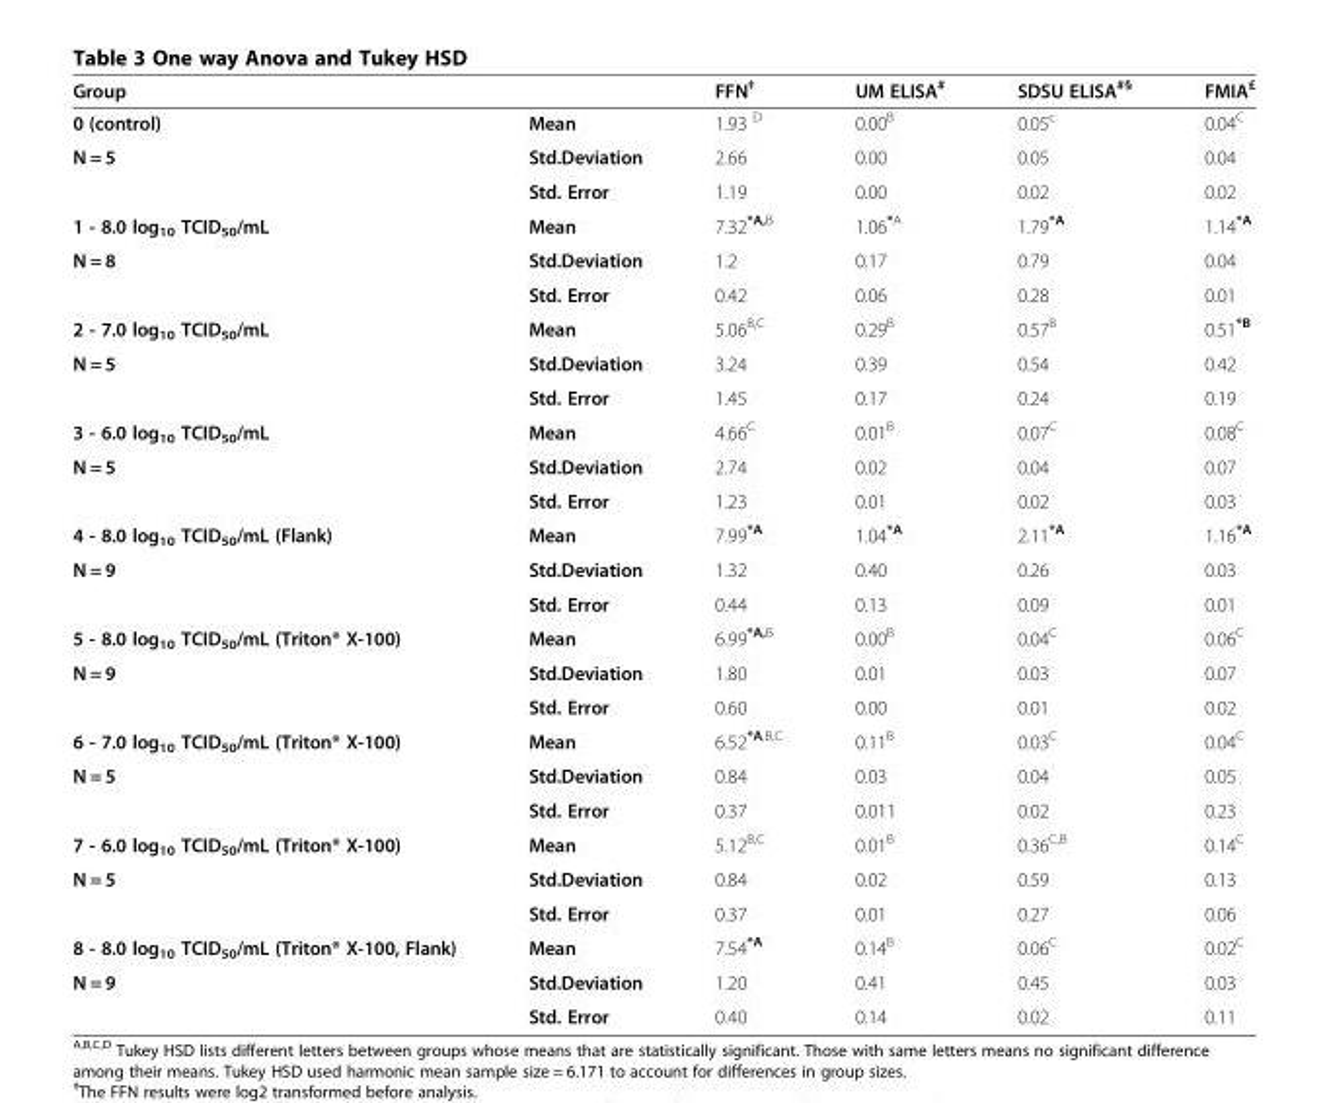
<table><thead><tr><td>Group</td><td></td><td>FFN<sup>ǂ</sup></td><td>UM ELISA<sup>#</sup></td><td>SDSU ELISA<sup>#§</sup></td><td>FMIA<sup>£</sup></td></tr></thead><tbody><tr><td>0 (control)</td><td>Mean</td><td>1.93 <sup>D</sup></td><td>0.00<sup>B</sup></td><td>0.05<sup>c</sup></td><td>0.04<sup>C</sup></td></tr><tr><td rowspan="2">N = 5</td><td>Std.Deviation</td><td>2.66</td><td>0.00</td><td>0.05</td><td>0.04</td></tr><tr><td>Std. Error</td><td>1.19</td><td>0.00</td><td>0.02</td><td>0.02</td></tr><tr><td>1 - 8.0 log<sub>10</sub> TCID<sub>50</sub>/mL</td><td>Mean</td><td>7.32<sup>*A,B</sup></td><td>1.06<sup>*A</sup></td><td>1.79<sup>*A</sup></td><td>1.14<sup>*A</sup></td></tr><tr><td rowspan="2">N = 8</td><td>Std.Deviation</td><td>1.2</td><td>0.17</td><td>0.79</td><td>0.04</td></tr><tr><td>Std. Error</td><td>0.42</td><td>0.06</td><td>0.28</td><td>0.01</td></tr><tr><td>2 - 7.0 log<sub>10</sub> TCID<sub>50</sub>/mL</td><td>Mean</td><td>5.06<sup>B,C</sup></td><td>0.29<sup>B</sup></td><td>0.57<sup>B</sup></td><td>0.51<sup>*B</sup></td></tr><tr><td rowspan="2">N = 5</td><td>Std.Deviation</td><td>3.24</td><td>0.39</td><td>0.54</td><td>0.42</td></tr><tr><td>Std. Error</td><td>1.45</td><td>0.17</td><td>0.24</td><td>0.19</td></tr><tr><td>3 - 6.0 log<sub>10</sub> TCID<sub>50</sub>/mL</td><td>Mean</td><td>4.66<sup>C</sup></td><td>0.01<sup>B</sup></td><td>0.07<sup>C</sup></td><td>0.08<sup>C</sup></td></tr><tr><td rowspan="2">N = 5</td><td>Std.Deviation</td><td>2.74</td><td>0.02</td><td>0.04</td><td>0.07</td></tr><tr><td>Std. Error</td><td>1.23</td><td>0.01</td><td>0.02</td><td>0.03</td></tr><tr><td>4 - 8.0 log<sub>10</sub> TCID<sub>50</sub>/mL (Flank)</td><td>Mean</td><td>7.99<sup>*A</sup></td><td>1.04<sup>*A</sup></td><td>2.11<sup>*A</sup></td><td>1.16<sup>*A</sup></td></tr><tr><td rowspan="2">N = 9</td><td>Std.Deviation</td><td>1.32</td><td>0.40</td><td>0.26</td><td>0.03</td></tr><tr><td>Std. Error</td><td>0.44</td><td>0.13</td><td>0.09</td><td>0.01</td></tr><tr><td>5 - 8.0 log<sub>10</sub> TCID<sub>50</sub>/mL (Triton® X-100)</td><td>Mean</td><td>6.99<sup>*A,B</sup></td><td>0.00<sup>B</sup></td><td>0.04<sup>C</sup></td><td>0.06<sup>C</sup></td></tr><tr><td rowspan="2">N = 9</td><td>Std.Deviation</td><td>1.80</td><td>0.01</td><td>0.03</td><td>0.07</td></tr><tr><td>Std. Error</td><td>0.60</td><td>0.00</td><td>0.01</td><td>0.02</td></tr><tr><td>6 - 7.0 log<sub>10</sub> TCID<sub>50</sub>/mL (Triton® X-100)</td><td>Mean</td><td>6.52<sup>*A,B,C</sup></td><td>0.11<sup>B</sup></td><td>0.03<sup>C</sup></td><td>0.04<sup>C</sup></td></tr><tr><td rowspan="2">N = 5</td><td>Std.Deviation</td><td>0.84</td><td>0.03</td><td>0.04</td><td>0.05</td></tr><tr><td>Std. Error</td><td>0.37</td><td>0.011</td><td>0.02</td><td>0.23</td></tr><tr><td>7 - 6.0 log<sub>10</sub> TCID<sub>50</sub>/mL (Triton® X-100)</td><td>Mean</td><td>5.12<sup>B,C</sup></td><td>0.01<sup>B</sup></td><td>0.36<sup>C,B</sup></td><td>0.14<sup>C</sup></td></tr><tr><td rowspan="2">N = 5</td><td>Std.Deviation</td><td>0.84</td><td>0.02</td><td>0.59</td><td>0.13</td></tr><tr><td>Std. Error</td><td>0.37</td><td>0.01</td><td>0.27</td><td>0.06</td></tr><tr><td>8 - 8.0 log<sub>10</sub> TCID<sub>50</sub>/mL (Triton® X-100, Flank)</td><td>Mean</td><td>7.54<sup>*A</sup></td><td>0.14<sup>B</sup></td><td>0.06<sup>C</sup></td><td>0.02<sup>C</sup></td></tr><tr><td rowspan="2">N = 9</td><td>Std.Deviation</td><td>1.20</td><td>0.41</td><td>0.45</td><td>0.03</td></tr><tr><td>Std. Error</td><td>0.40</td><td>0.14</td><td>0.02</td><td>0.11</td></tr></tbody></table>